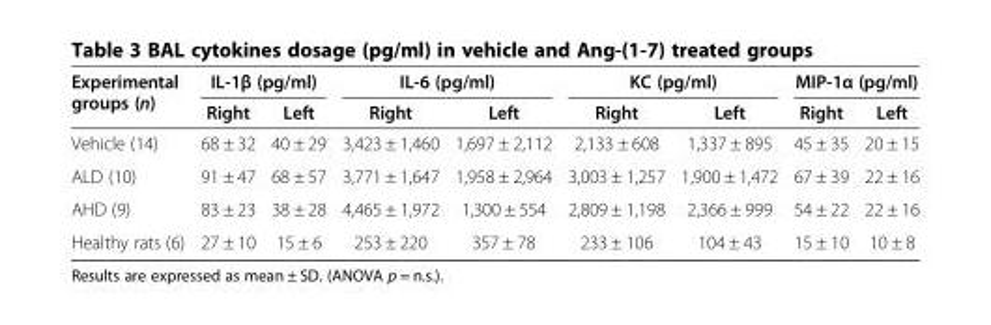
<table><thead><tr><td rowspan="2">Experimental groups (n)</td><td colspan="2">IL-1β (pg/ml)</td><td colspan="2">IL-6 (pg/ml)</td><td colspan="2">KC (pg/ml)</td><td colspan="2">MIP-1α (pg/ml)</td></tr><tr><td>Right</td><td>Left</td><td>Right</td><td>Left</td><td>Right</td><td>Left</td><td>Right</td><td>Left</td></tr></thead><tbody><tr><td>Vehicle (14)</td><td>68 ± 32</td><td>40 ± 29</td><td>3,423 ± 1,460</td><td>1,697 ± 2,112</td><td>2,133 ± 608</td><td>1,337 ± 895</td><td>45 ± 35</td><td>20 ± 15</td></tr><tr><td>ALD (10)</td><td>91 ± 47</td><td>68 ± 57</td><td>3,771 ± 1,647</td><td>1,958 ± 2,964</td><td>3,003 ± 1,257</td><td>1,900 ± 1,472</td><td>67 ± 39</td><td>22 ± 16</td></tr><tr><td>AHD (9)</td><td>83 ± 23</td><td>38 ± 28</td><td>4,465 ± 1,972</td><td>1,300 ± 554</td><td>2,809 ± 1,198</td><td>2,366 ± 999</td><td>54 ± 22</td><td>22 ± 16</td></tr><tr><td>Healthy rats (6)</td><td>27 ± 10</td><td>15 ± 6</td><td>253 ± 220</td><td>357 ± 78</td><td>233 ± 106</td><td>104 ± 43</td><td>15 ± 10</td><td>10 ± 8</td></tr></tbody></table>